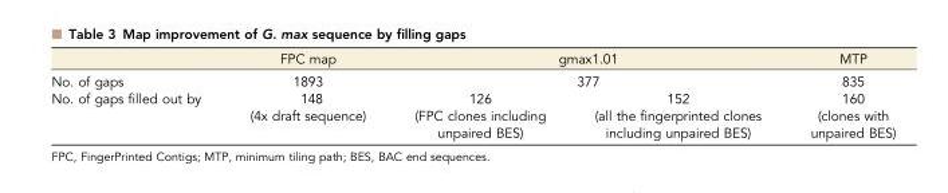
<table><thead><tr><td rowspan="3">No. of gaps No. of gaps filled out by</td><td rowspan="3">FPC map 1893 148</td><td rowspan="2" colspan="2">gmax1.01 377</td><td rowspan="3">MTP 835 160</td></tr><tr></tr><tr><td>126</td><td>152</td></tr></thead><tbody><tr><td></td><td>(4x draft sequence)</td><td>(FPC clones including unpaired BES)</td><td>(all the fingerprinted clones including unpaired BES)</td><td>(clones with unpaired BES)</td></tr></tbody></table>